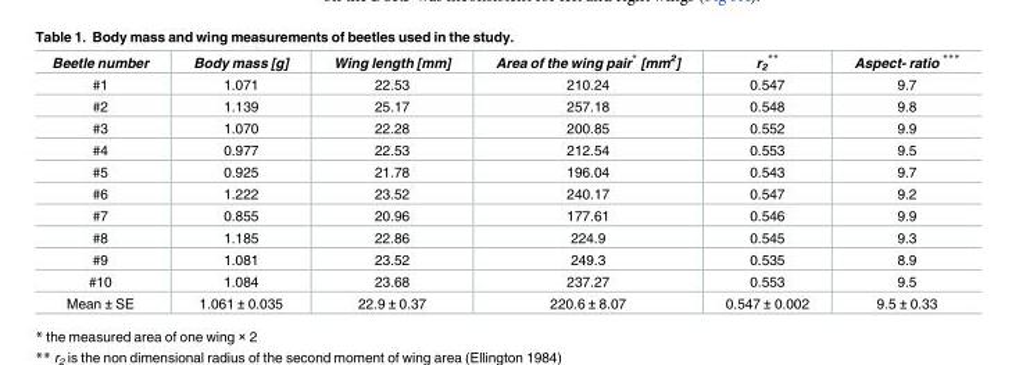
<table><thead><tr><td>Beetle number</td><td>Body mass [g]</td><td>Wing length [mm]</td><td>Area of the wing pair* [mm<sup>2</sup>]</td><td>r<sub>2</sub> **</td><td>Aspect- ratio ***</td></tr></thead><tbody><tr><td>#1</td><td>1.071</td><td>22.53</td><td>210.24</td><td>0.547</td><td>9.7</td></tr><tr><td>#2</td><td>1.139</td><td>25.17</td><td>257.18</td><td>0.548</td><td>9.8</td></tr><tr><td>#3</td><td>1.070</td><td>22.28</td><td>200.85</td><td>0.552</td><td>9.9</td></tr><tr><td>#4</td><td>0.977</td><td>22.53</td><td>212.54</td><td>0.553</td><td>9.5</td></tr><tr><td>#5</td><td>0.925</td><td>21.78</td><td>196.04</td><td>0.543</td><td>9.7</td></tr><tr><td>#6</td><td>1.222</td><td>23.52</td><td>240.17</td><td>0.547</td><td>9.2</td></tr><tr><td>#7</td><td>0.855</td><td>20.96</td><td>177.61</td><td>0.546</td><td>9.9</td></tr><tr><td>#8</td><td>1.185</td><td>22.86</td><td>224.9</td><td>0.545</td><td>9.3</td></tr><tr><td>#9</td><td>1.081</td><td>23.52</td><td>249.3</td><td>0.535</td><td>8.9</td></tr><tr><td>#10</td><td>1.084</td><td>23.68</td><td>237.27</td><td>0.553</td><td>9.5</td></tr><tr><td>Mean ± SE</td><td>1.061 ± 0.035</td><td>22.9 ± 0.37</td><td>220.6 ± 8.07</td><td>0.547 ± 0.002</td><td>9.5 ± 0.33</td></tr></tbody></table>